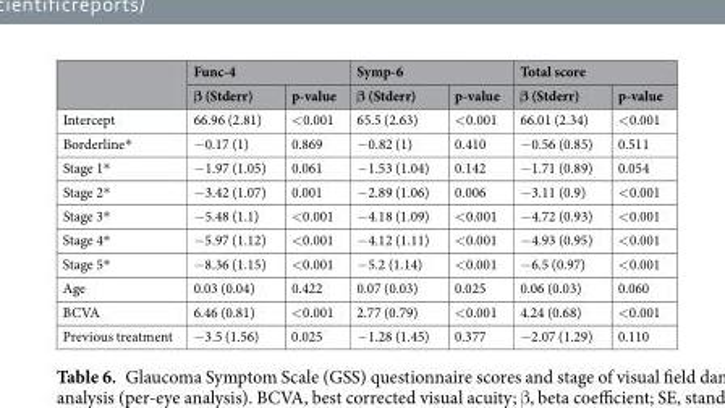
<table><thead><tr><td rowspan="2"></td><td colspan="2">Func-4</td><td colspan="2">Symp-6</td><td colspan="2">Total score</td></tr><tr><td>β (Stderr)</td><td>p-value</td><td>β (Stderr)</td><td>p-value</td><td>β (Stderr)</td><td>p-value</td></tr></thead><tbody><tr><td>Intercept</td><td>66.96 (2.81)</td><td>&lt;0.001</td><td>65.5 (2.63)</td><td>&lt;0.001</td><td>66.01 (2.34)</td><td>&lt;0.001</td></tr><tr><td>Borderline*</td><td>−0.17 (1)</td><td>0.869</td><td>−0.82 (1)</td><td>0.410</td><td>−0.56 (0.85)</td><td>0.511</td></tr><tr><td>Stage 1*</td><td>−1.97 (1.05)</td><td>0.061</td><td>−1.53 (1.04)</td><td>0.142</td><td>−1.71 (0.89)</td><td>0.054</td></tr><tr><td>Stage 2*</td><td>−3.42 (1.07)</td><td>0.001</td><td>−2.89 (1.06)</td><td>0.006</td><td>−3.11 (0.9)</td><td>&lt;0.001</td></tr><tr><td>Stage 3*</td><td>−5.48 (1.1)</td><td>&lt;0.001</td><td>−4.18 (1.09)</td><td>&lt;0.001</td><td>−4.72 (0.93)</td><td>&lt;0.001</td></tr><tr><td>Stage 4*</td><td>−5.97 (1.12)</td><td>&lt;0.001</td><td>−4.12 (1.11)</td><td>&lt;0.001</td><td>−4.93 (0.95)</td><td>&lt;0.001</td></tr><tr><td>Stage 5*</td><td>−8.36 (1.15)</td><td>&lt;0.001</td><td>−5.2 (1.14)</td><td>&lt;0.001</td><td>−6.5 (0.97)</td><td>&lt;0.001</td></tr><tr><td>Age</td><td>0.03 (0.04)</td><td>0.422</td><td>0.07 (0.03)</td><td>0.025</td><td>0.06 (0.03)</td><td>0.060</td></tr><tr><td>BCVA</td><td>6.46 (0.81)</td><td>&lt;0.001</td><td>2.77 (0.79)</td><td>&lt;0.001</td><td>4.24 (0.68)</td><td>&lt;0.001</td></tr><tr><td>Previous treatment</td><td>−3.5 (1.56)</td><td>0.025</td><td>−1.28 (1.45)</td><td>0.377</td><td>−2.07 (1.29)</td><td>0.110</td></tr></tbody></table>